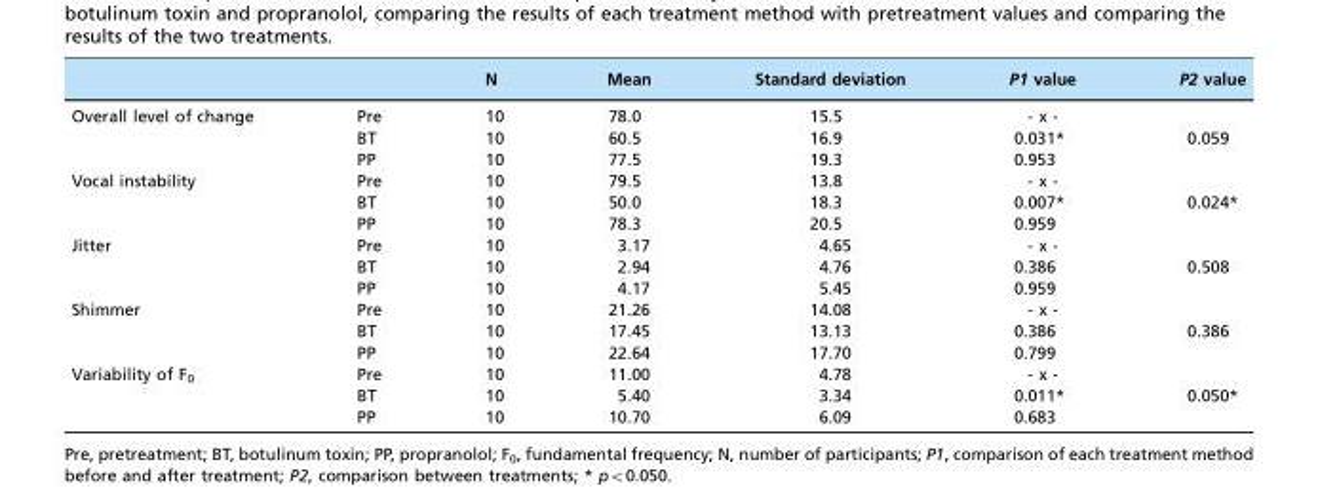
<table><thead><tr><td></td><td></td><td>N</td><td>Mean</td><td>Standard deviation</td><td>P1 value</td><td>P2 value</td></tr></thead><tbody><tr><td rowspan="3">Overall level of change</td><td>Pre</td><td>10</td><td>78.0</td><td>15.5</td><td>- x -</td><td></td></tr><tr><td>BT</td><td>10</td><td>60.5</td><td>16.9</td><td>0.031*</td><td rowspan="2">0.059</td></tr><tr><td>PP</td><td>10</td><td>77.5</td><td>19.3</td><td>0.953</td></tr><tr><td rowspan="3">Vocal instability</td><td>Pre</td><td>10</td><td>79.5</td><td>13.8</td><td>- x -</td><td></td></tr><tr><td>BT</td><td>10</td><td>50.0</td><td>18.3</td><td>0.007*</td><td rowspan="2">0.024*</td></tr><tr><td>PP</td><td>10</td><td>78.3</td><td>20.5</td><td>0.959</td></tr><tr><td rowspan="3">Jitter</td><td>Pre</td><td>10</td><td>3.17</td><td>4.65</td><td>- x -</td><td></td></tr><tr><td>BT</td><td>10</td><td>2.94</td><td>4.76</td><td>0.386</td><td rowspan="2">0.508</td></tr><tr><td>PP</td><td>10</td><td>4.17</td><td>5.45</td><td>0.959</td></tr><tr><td rowspan="3">Shimmer</td><td>Pre</td><td>10</td><td>21.26</td><td>14.08</td><td>- x -</td><td></td></tr><tr><td>BT</td><td>10</td><td>17.45</td><td>13.13</td><td>0.386</td><td rowspan="2">0.386</td></tr><tr><td>PP</td><td>10</td><td>22.64</td><td>17.70</td><td>0.799</td></tr><tr><td rowspan="3">Variability of F<sub>0</sub></td><td>Pre</td><td>10</td><td>11.00</td><td>4.78</td><td>- x -</td><td></td></tr><tr><td>BT</td><td>10</td><td>5.40</td><td>3.34</td><td>0.011*</td><td rowspan="2">0.050*</td></tr><tr><td>PP</td><td>10</td><td>10.70</td><td>6.09</td><td>0.683</td></tr></tbody></table>